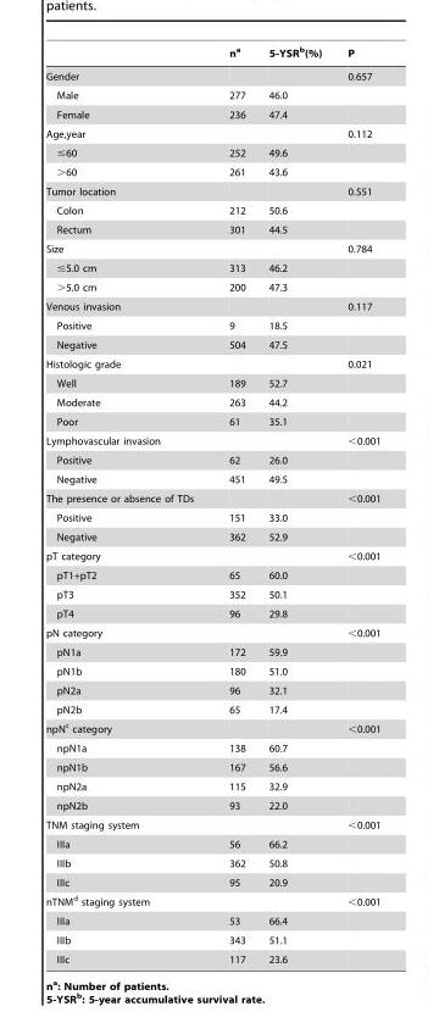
<table><thead><tr><td></td><td>n<sup>a</sup></td><td>5-YSR<sup>b</sup>(%)</td><td>P</td></tr></thead><tbody><tr><td>Gender</td><td></td><td></td><td>0.657</td></tr><tr><td>Male</td><td>277</td><td>46.0</td><td></td></tr><tr><td>Female</td><td>236</td><td>47.4</td><td></td></tr><tr><td>Age,year</td><td></td><td></td><td>0.112</td></tr><tr><td>≤60</td><td>252</td><td>49.6</td><td></td></tr><tr><td>&gt;60</td><td>261</td><td>43.6</td><td></td></tr><tr><td>Tumor location</td><td></td><td></td><td>0.551</td></tr><tr><td>Colon</td><td>212</td><td>50.6</td><td></td></tr><tr><td>Rectum</td><td>301</td><td>44.5</td><td></td></tr><tr><td>Size</td><td></td><td></td><td>0.784</td></tr><tr><td>≤5.0 cm</td><td>313</td><td>46.2</td><td></td></tr><tr><td>&gt;5.0 cm</td><td>200</td><td>47.3</td><td></td></tr><tr><td>Venous invasion</td><td></td><td></td><td>0.117</td></tr><tr><td>Positive</td><td>9</td><td>18.5</td><td></td></tr><tr><td>Negative</td><td>504</td><td>47.5</td><td></td></tr><tr><td>Histologic grade</td><td></td><td></td><td>0.021</td></tr><tr><td>Well</td><td>189</td><td>52.7</td><td></td></tr><tr><td>Moderate</td><td>263</td><td>44.2</td><td></td></tr><tr><td>Poor</td><td>61</td><td>35.1</td><td></td></tr><tr><td>Lymphovascular invasion</td><td></td><td></td><td>&lt;0.001</td></tr><tr><td>Positive</td><td>62</td><td>26.0</td><td></td></tr><tr><td>Negative</td><td>451</td><td>49.5</td><td></td></tr><tr><td>The presence or absence of TDs</td><td></td><td></td><td>&lt;0.001</td></tr><tr><td>Positive</td><td>151</td><td>33.0</td><td></td></tr><tr><td>Negative</td><td>362</td><td>52.9</td><td></td></tr><tr><td>pT category</td><td></td><td></td><td>&lt;0.001</td></tr><tr><td>pT1+pT2</td><td>65</td><td>60.0</td><td></td></tr><tr><td>pT3</td><td>352</td><td>50.1</td><td></td></tr><tr><td>pT4</td><td>96</td><td>29.8</td><td></td></tr><tr><td>pN category</td><td></td><td></td><td>&lt;0.001</td></tr><tr><td>pN1a</td><td>172</td><td>59.9</td><td></td></tr><tr><td>pN1b</td><td>180</td><td>51.0</td><td></td></tr><tr><td>pN2a</td><td>96</td><td>32.1</td><td></td></tr><tr><td>pN2b</td><td>65</td><td>17.4</td><td></td></tr><tr><td>npN<sup>c</sup> category</td><td></td><td></td><td>&lt;0.001</td></tr><tr><td>npN1a</td><td>138</td><td>60.7</td><td></td></tr><tr><td>npN1b</td><td>167</td><td>56.6</td><td></td></tr><tr><td>npN2a</td><td>115</td><td>32.9</td><td></td></tr><tr><td>npN2b</td><td>93</td><td>22.0</td><td></td></tr><tr><td>TNM staging system</td><td></td><td></td><td>&lt;0.001</td></tr><tr><td>IIIa</td><td>56</td><td>66.2</td><td></td></tr><tr><td>IIIb</td><td>362</td><td>50.8</td><td></td></tr><tr><td>IIIc</td><td>95</td><td>20.9</td><td></td></tr><tr><td>nTNM<sup>d</sup> staging system</td><td></td><td></td><td>&lt;0.001</td></tr><tr><td>IIIa</td><td>53</td><td>66.4</td><td></td></tr><tr><td>IIIb</td><td>343</td><td>51.1</td><td></td></tr><tr><td>IIIc</td><td>117</td><td>23.6</td><td></td></tr></tbody></table>